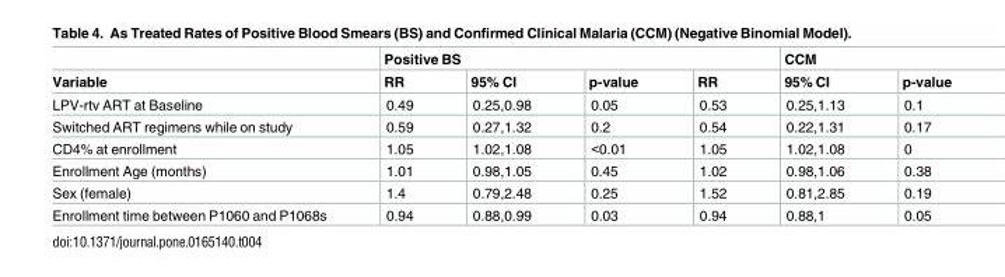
<table><thead><tr><td rowspan="2">Variable</td><td colspan="4">Positive BS</td><td colspan="2">CCM</td></tr><tr><td>RR</td><td>95% CI</td><td>p-value</td><td>RR</td><td>95% CI</td><td>p-value</td></tr></thead><tbody><tr><td>LPV-rtv ART at Baseline</td><td>0.49</td><td>0.25,0.98</td><td>0.05</td><td>0.53</td><td>0.25,1.13</td><td>0.1</td></tr><tr><td>Switched ART regimens while on study</td><td>0.59</td><td>0.27,1.32</td><td>0.2</td><td>0.54</td><td>0.22,1.31</td><td>0.17</td></tr><tr><td>CD4% at enrollment</td><td>1.05</td><td>1.02,1.08</td><td>&lt;0.01</td><td>1.05</td><td>1.02,1.08</td><td>0</td></tr><tr><td>Enrollment Age (months)</td><td>1.01</td><td>0.98,1.05</td><td>0.45</td><td>1.02</td><td>0.98,1.06</td><td>0.38</td></tr><tr><td>Sex (female)</td><td>1.4</td><td>0.79,2.48</td><td>0.25</td><td>1.52</td><td>0.81,2.85</td><td>0.19</td></tr><tr><td>Enrollment time between P1060 and P1068s</td><td>0.94</td><td>0.88,0.99</td><td>0.03</td><td>0.94</td><td>0.88,1</td><td>0.05</td></tr></tbody></table>